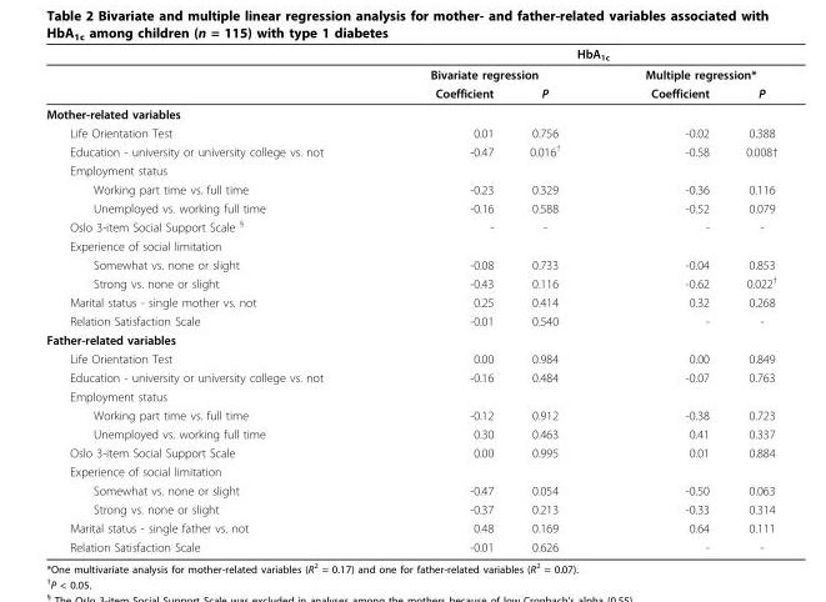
<table><thead><tr><td rowspan="3"></td><td colspan="4">HbA<sub>1c</sub></td></tr><tr><td colspan="2">Bivariate regression</td><td colspan="2">Multiple regression*</td></tr><tr><td>Coefficient</td><td>P</td><td>Coefficient</td><td>P</td></tr></thead><tbody><tr><td colspan="5">Mother-related variables</td></tr><tr><td>Life Orientation Test</td><td>0.01</td><td>0.756</td><td>-0.02</td><td>0.388</td></tr><tr><td>Education - university or university college vs. not</td><td>-0.47</td><td>0.016<sup>†</sup></td><td>-0.58</td><td>0.008†</td></tr><tr><td colspan="5">Employment status</td></tr><tr><td>Working part time vs. full time</td><td>-0.23</td><td>0.329</td><td>-0.36</td><td>0.116</td></tr><tr><td>Unemployed vs. working full time</td><td>-0.16</td><td>0.588</td><td>-0.52</td><td>0.079</td></tr><tr><td>Oslo 3-item Social Support Scale <sup>§</sup></td><td>-</td><td>-</td><td>-</td><td>-</td></tr><tr><td colspan="5">Experience of social limitation</td></tr><tr><td>Somewhat vs. none or slight</td><td>-0.08</td><td>0.733</td><td>-0.04</td><td>0.853</td></tr><tr><td>Strong vs. none or slight</td><td>-0.43</td><td>0.116</td><td>-0.62</td><td>0.022<sup>†</sup></td></tr><tr><td>Marital status - single mother vs. not</td><td>0.25</td><td>0.414</td><td>0.32</td><td>0.268</td></tr><tr><td>Relation Satisfaction Scale</td><td>-0.01</td><td>0.540</td><td>-</td><td>-</td></tr><tr><td colspan="5">Father-related variables</td></tr><tr><td>Life Orientation Test</td><td>0.00</td><td>0.984</td><td>0.00</td><td>0.849</td></tr><tr><td>Education - university or university college vs. not</td><td>-0.16</td><td>0.484</td><td>-0.07</td><td>0.763</td></tr><tr><td colspan="5">Employment status</td></tr><tr><td>Working part time vs. full time</td><td>-0.12</td><td>0.912</td><td>-0.38</td><td>0.723</td></tr><tr><td>Unemployed vs. working full time</td><td>0.30</td><td>0.463</td><td>0.41</td><td>0.337</td></tr><tr><td>Oslo 3-item Social Support Scale</td><td>0.00</td><td>0.995</td><td>0.01</td><td>0.884</td></tr><tr><td colspan="5">Experience of social limitation</td></tr><tr><td>Somewhat vs. none or slight</td><td>-0.47</td><td>0.054</td><td>-0.50</td><td>0.063</td></tr><tr><td>Strong vs. none or slight</td><td>-0.37</td><td>0.213</td><td>-0.33</td><td>0.314</td></tr><tr><td>Marital status - single father vs. not</td><td>0.48</td><td>0.169</td><td>0.64</td><td>0.111</td></tr><tr><td>Relation Satisfaction Scale</td><td>-0.01</td><td>0.626</td><td>-</td><td>-</td></tr></tbody></table>